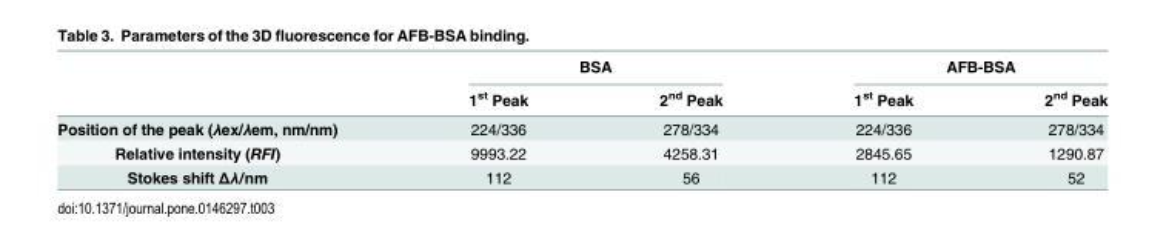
<table><thead><tr><td rowspan="2"></td><td colspan="2">BSA</td><td colspan="2">AFB-BSA</td></tr><tr><td>1<sup>st</sup> Peak</td><td>2<sup>nd</sup> Peak</td><td>1<sup>st</sup> Peak</td><td>2<sup>nd</sup> Peak</td></tr></thead><tbody><tr><td>Position of the peak (λex/λem, nm/nm)</td><td>224/336</td><td>278/334</td><td>224/336</td><td>278/334</td></tr><tr><td>Relative intensity (RFI)</td><td>9993.22</td><td>4258.31</td><td>2845.65</td><td>1290.87</td></tr><tr><td>Stokes shift Δλ/nm</td><td>112</td><td>56</td><td>112</td><td>52</td></tr></tbody></table>